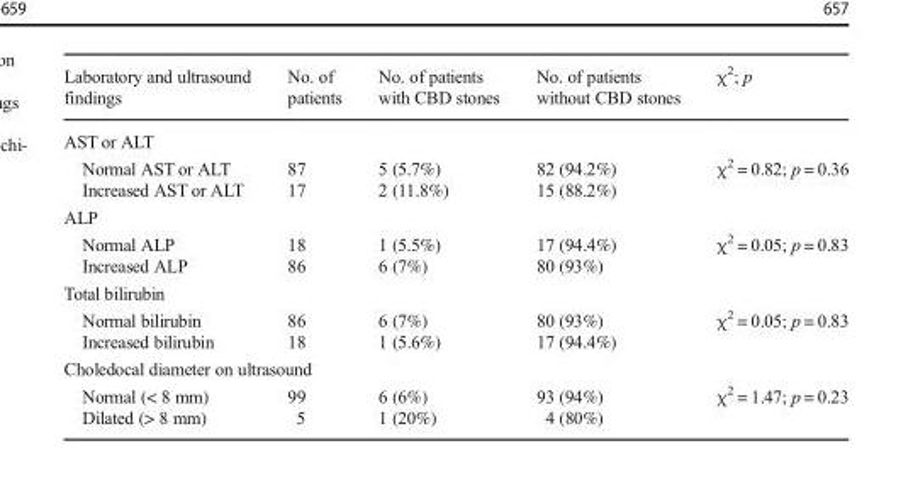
<table><thead><tr><td>Laboratory and ultrasound findings</td><td>No. of patients</td><td>No. of patients with CBD stones</td><td>No. of patients without CBD stones</td><td>χ<sup>2</sup>; p</td></tr></thead><tbody><tr><td colspan="5">AST or ALT</td></tr><tr><td>Normal AST or ALT</td><td>87</td><td>5 (5.7%)</td><td>82 (94.2%)</td><td rowspan="2">χ<sup>2</sup> = 0.82; p = 0.36</td></tr><tr><td>Increased AST or ALT</td><td>17</td><td>2 (11.8%)</td><td>15 (88.2%)</td></tr><tr><td colspan="5">ALP</td></tr><tr><td>Normal ALP</td><td>18</td><td>1 (5.5%)</td><td>17 (94.4%)</td><td rowspan="2">χ<sup>2</sup> = 0.05; p = 0.83</td></tr><tr><td>Increased ALP</td><td>86</td><td>6 (7%)</td><td>80 (93%)</td></tr><tr><td colspan="5">Total bilirubin</td></tr><tr><td>Normal bilirubin</td><td>86</td><td>6 (7%)</td><td>80 (93%)</td><td rowspan="2">χ<sup>2</sup> = 0.05; p = 0.83</td></tr><tr><td>Increased bilirubin</td><td>18</td><td>1 (5.6%)</td><td>17 (94.4%)</td></tr><tr><td colspan="5">Choledocal diameter on ultrasound</td></tr><tr><td>Normal (&lt; 8 mm)</td><td>99</td><td>6 (6%)</td><td>93 (94%)</td><td rowspan="2">χ<sup>2</sup> = 1.47; p = 0.23</td></tr><tr><td>Dilated (&gt; 8 mm)</td><td>5</td><td>1 (20%)</td><td>4 (80%)</td></tr></tbody></table>